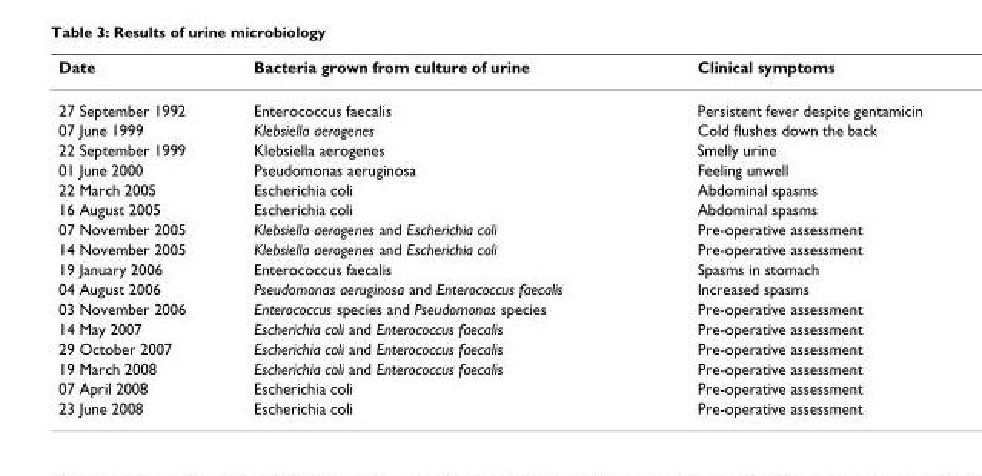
<table><thead><tr><td>Date</td><td>Bacteria grown from culture of urine</td><td>Clinical symptoms</td></tr></thead><tbody><tr><td>27 September 1992</td><td>Enterococcus faecalis</td><td>Persistent fever despite gentamicin</td></tr><tr><td>07 June 1999</td><td>Klebsiella aerogenes</td><td>Cold flushes down the back</td></tr><tr><td>22 September 1999</td><td>Klebsiella aerogenes</td><td>Smelly urine</td></tr><tr><td>01 June 2000</td><td>Pseudomonas aeruginosa</td><td>Feeling unwell</td></tr><tr><td>22 March 2005</td><td>Escherichia coli</td><td>Abdominal spasms</td></tr><tr><td>16 August 2005</td><td>Escherichia coli</td><td>Abdominal spasms</td></tr><tr><td>07 November 2005</td><td>Klebsiella aerogenes and Escherichia coli</td><td>Pre-operative assessment</td></tr><tr><td>14 November 2005</td><td>Klebsiella aerogenes and Escherichia coli</td><td>Pre-operative assessment</td></tr><tr><td>19 January 2006</td><td>Enterococcus faecalis</td><td>Spasms in stomach</td></tr><tr><td>04 August 2006</td><td>Pseudomonas aeruginosa and Enterococcus faecalis</td><td>Increased spasms</td></tr><tr><td>03 November 2006</td><td>Enterococcus species and Pseudomonas species</td><td>Pre-operative assessment</td></tr><tr><td>14 May 2007</td><td>Escherichia coli and Enterococcus faecalis</td><td>Pre-operative assessment</td></tr><tr><td>29 October 2007</td><td>Escherichia coli and Enterococcus faecalis</td><td>Pre-operative assessment</td></tr><tr><td>19 March 2008</td><td>Escherichia coli and Enterococcus faecalis</td><td>Pre-operative assessment</td></tr><tr><td>07 April 2008</td><td>Escherichia coli</td><td>Pre-operative assessment</td></tr><tr><td>23 June 2008</td><td>Escherichia coli</td><td>Pre-operative assessment</td></tr></tbody></table>